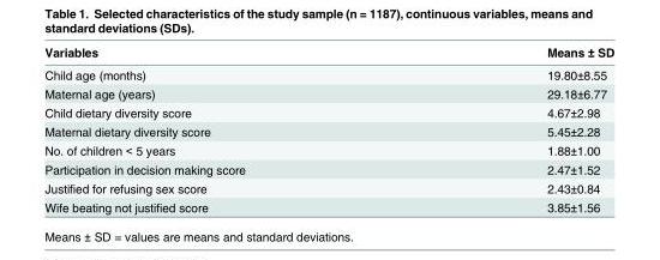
<table><thead><tr><td>Variables</td><td>Means ± SD</td></tr></thead><tbody><tr><td>Child age (months)</td><td>19.80±8.55</td></tr><tr><td>Maternal age (years)</td><td>29.18±6.77</td></tr><tr><td>Child dietary diversity score</td><td>4.67±2.98</td></tr><tr><td>Maternal dietary diversity score</td><td>5.45±2.28</td></tr><tr><td>No. of children &lt; 5 years</td><td>1.88±1.00</td></tr><tr><td>Participation in decision making score</td><td>2.47±1.52</td></tr><tr><td>Justified for refusing sex score</td><td>2.43±0.84</td></tr><tr><td>Wife beating not justified score</td><td>3.85±1.56</td></tr></tbody></table>